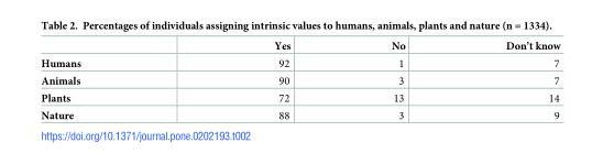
<table><thead><tr><td></td><td>Yes</td><td>No</td><td>Don’t know</td></tr></thead><tbody><tr><td>Humans</td><td>92</td><td>1</td><td>7</td></tr><tr><td>Animals</td><td>90</td><td>3</td><td>7</td></tr><tr><td>Plants</td><td>72</td><td>13</td><td>14</td></tr><tr><td>Nature</td><td>88</td><td>3</td><td>9</td></tr></tbody></table>